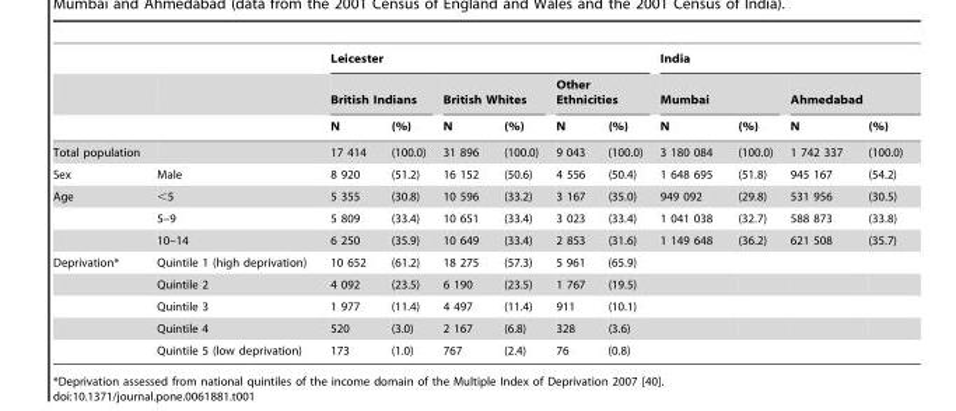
<table><thead><tr><td rowspan="3"></td><td rowspan="3"></td><td colspan="6">Leicester</td><td colspan="4">India</td></tr><tr><td colspan="2">British Indians</td><td colspan="2">British Whites</td><td colspan="2">Other Ethnicities</td><td colspan="2">Mumbai</td><td colspan="2">Ahmedabad</td></tr><tr><td>N</td><td>(%)</td><td>N</td><td>(%)</td><td>N</td><td>(%)</td><td>N</td><td>(%)</td><td>N</td><td>(%)</td></tr></thead><tbody><tr><td>Total population</td><td></td><td>17 414</td><td>(100.0)</td><td>31 896</td><td>(100.0)</td><td>9 043</td><td>(100.0)</td><td>3 180 084</td><td>(100.0)</td><td>1 742 337</td><td>(100.0)</td></tr><tr><td>Sex</td><td>Male</td><td>8 920</td><td>(51.2)</td><td>16 152</td><td>(50.6)</td><td>4 556</td><td>(50.4)</td><td>1 648 695</td><td>(51.8)</td><td>945 167</td><td>(54.2)</td></tr><tr><td rowspan="3">Age</td><td>&lt;5</td><td>5 355</td><td>(30.8)</td><td>10 596</td><td>(33.2)</td><td>3 167</td><td>(35.0)</td><td>949 092</td><td>(29.8)</td><td>531 956</td><td>(30.5)</td></tr><tr><td>5–9</td><td>5 809</td><td>(33.4)</td><td>10 651</td><td>(33.4)</td><td>3 023</td><td>(33.4)</td><td>1 041 038</td><td>(32.7)</td><td>588 873</td><td>(33.8)</td></tr><tr><td>10–14</td><td>6 250</td><td>(35.9)</td><td>10 649</td><td>(33.4)</td><td>2 853</td><td>(31.6)</td><td>1 149 648</td><td>(36.2)</td><td>621 508</td><td>(35.7)</td></tr><tr><td rowspan="5">Deprivation*</td><td>Quintile 1 (high deprivation)</td><td>10 652</td><td>(61.2)</td><td>18 275</td><td>(57.3)</td><td>5 961</td><td>(65.9)</td><td></td><td></td><td></td><td></td></tr><tr><td>Quintile 2</td><td>4 092</td><td>(23.5)</td><td>6 190</td><td>(23.5)</td><td>1 767</td><td>(19.5)</td><td></td><td></td><td></td><td></td></tr><tr><td>Quintile 3</td><td>1 977</td><td>(11.4)</td><td>4 497</td><td>(11.4)</td><td>911</td><td>(10.1)</td><td></td><td></td><td></td><td></td></tr><tr><td>Quintile 4</td><td>520</td><td>(3.0)</td><td>2 167</td><td>(6.8)</td><td>328</td><td>(3.6)</td><td></td><td></td><td></td><td></td></tr><tr><td>Quintile 5 (low deprivation)</td><td>173</td><td>(1.0)</td><td>767</td><td>(2.4)</td><td>76</td><td>(0.8)</td><td></td><td></td><td></td><td></td></tr></tbody></table>